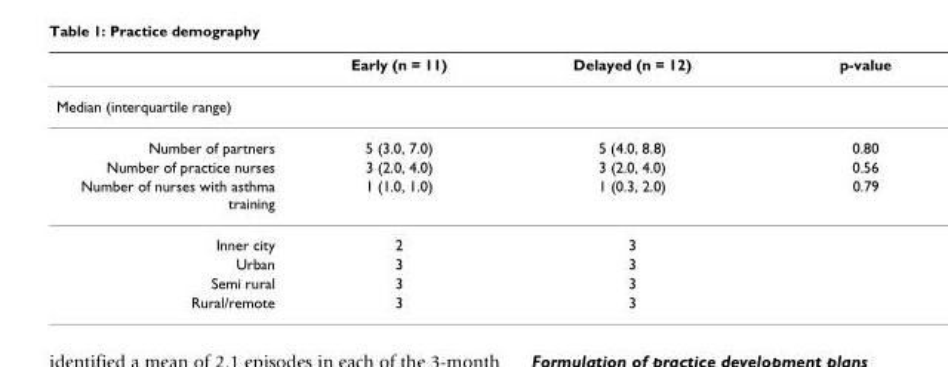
<table><thead><tr><td></td><td>Early (n = 11)</td><td>Delayed (n = 12)</td><td>p-value</td></tr></thead><tbody><tr><td colspan="4">Median (interquartile range)</td></tr><tr><td>Number of partners</td><td>5 (3.0, 7.0)</td><td>5 (4.0, 8.8)</td><td>0.80</td></tr><tr><td>Number of practice nurses</td><td>3 (2.0, 4.0)</td><td>3 (2.0, 4.0)</td><td>0.56</td></tr><tr><td>Number of nurses with asthma training</td><td>1 (1.0, 1.0)</td><td>1 (0.3, 2.0)</td><td>0.79</td></tr><tr><td>Inner city</td><td>2</td><td>3</td><td></td></tr><tr><td>Urban</td><td>3</td><td>3</td><td></td></tr><tr><td>Semi rural</td><td>3</td><td>3</td><td></td></tr><tr><td>Rural/remote</td><td>3</td><td>3</td><td></td></tr></tbody></table>